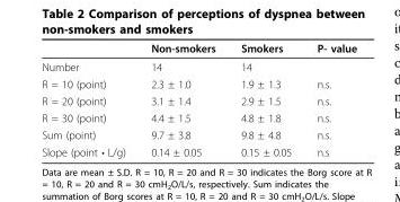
<table><thead><tr><td></td><td>Non-smokers</td><td>Smokers</td><td>P- value</td></tr></thead><tbody><tr><td>Number</td><td>14</td><td>14</td><td></td></tr><tr><td>R = 10 (point)</td><td>2.3 ± 1.0</td><td>1.9 ± 1.3</td><td>n.s.</td></tr><tr><td>R = 20 (point)</td><td>3.1 ± 1.4</td><td>2.9 ± 1.5</td><td>n.s.</td></tr><tr><td>R = 30 (point)</td><td>4.4 ± 1.5</td><td>4.8 ± 1.8</td><td>n.s.</td></tr><tr><td>Sum (point)</td><td>9.7 ± 3.8</td><td>9.8 ± 4.8</td><td>n.s.</td></tr><tr><td>Slope (point • L/g)</td><td>0.14 ± 0.05</td><td>0.15 ± 0.05</td><td>n.s</td></tr></tbody></table>